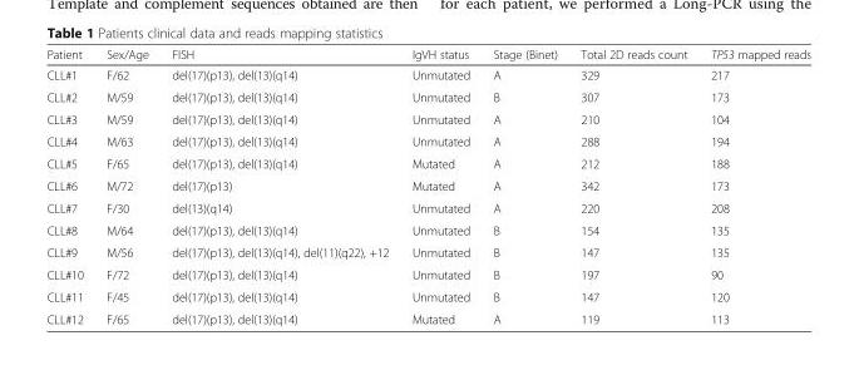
<table><thead><tr><td>Patient</td><td>Sex/Age</td><td>FISH</td><td>IgVH status</td><td>Stage (Binet)</td><td>Total 2D reads count</td><td>TP53 mapped reads</td></tr></thead><tbody><tr><td>CLL#1</td><td>F/62</td><td>del(17)(p13), del(13)(q14)</td><td>Unmutated</td><td>A</td><td>329</td><td>217</td></tr><tr><td>CLL#2</td><td>M/59</td><td>del(17)(p13), del(13)(q14)</td><td>Unmutated</td><td>B</td><td>307</td><td>173</td></tr><tr><td>CLL#3</td><td>M/59</td><td>del(17)(p13), del(13)(q14)</td><td>Unmutated</td><td>A</td><td>210</td><td>104</td></tr><tr><td>CLL#4</td><td>M/63</td><td>del(17)(p13), del(13)(q14)</td><td>Unmutated</td><td>A</td><td>288</td><td>194</td></tr><tr><td>CLL#5</td><td>F/65</td><td>del(17)(p13), del(13)(q14)</td><td>Mutated</td><td>A</td><td>212</td><td>188</td></tr><tr><td>CLL#6</td><td>M/72</td><td>del(17)(p13)</td><td>Mutated</td><td>A</td><td>342</td><td>173</td></tr><tr><td>CLL#7</td><td>F/30</td><td>del(13)(q14)</td><td>Unmutated</td><td>A</td><td>220</td><td>208</td></tr><tr><td>CLL#8</td><td>M/64</td><td>del(17)(p13), del(13)(q14)</td><td>Unmutated</td><td>B</td><td>154</td><td>135</td></tr><tr><td>CLL#9</td><td>M/56</td><td>del(17)(p13), del(13)(q14), del(11)(q22), +12</td><td>Unmutated</td><td>B</td><td>147</td><td>135</td></tr><tr><td>CLL#10</td><td>F/72</td><td>del(17)(p13), del(13)(q14)</td><td>Unmutated</td><td>B</td><td>197</td><td>90</td></tr><tr><td>CLL#11</td><td>F/45</td><td>del(17)(p13), del(13)(q14)</td><td>Unmutated</td><td>B</td><td>147</td><td>120</td></tr><tr><td>CLL#12</td><td>F/65</td><td>del(17)(p13), del(13)(q14)</td><td>Mutated</td><td>A</td><td>119</td><td>113</td></tr></tbody></table>